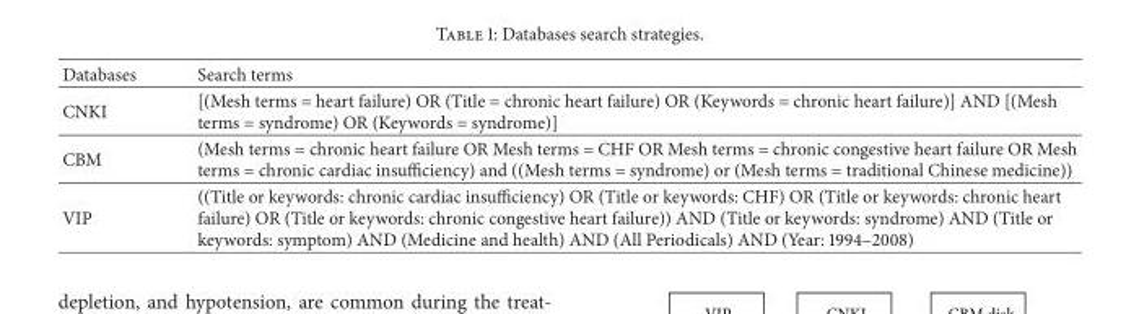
<table><thead><tr><td>Databases</td><td>Search terms</td></tr></thead><tbody><tr><td>CNKI</td><td>[(Mesh terms = heart failure) OR (Title = chronic heart failure) OR (Keywords = chronic heart failure)] AND [(Mesh terms = syndrome) OR (Keywords = syndrome)]</td></tr><tr><td>CBM</td><td>(Mesh terms = chronic heart failure OR Mesh terms = CHF OR Mesh terms = chronic congestive heart failure OR Mesh terms = chronic cardiac insufficiency) and ((Mesh terms = syndrome) or (Mesh terms = traditional Chinese medicine))</td></tr><tr><td>VIP</td><td>((Title or keywords: chronic cardiac insufficiency) OR (Title or keywords: CHF) OR (Title or keywords: chronic heart failure) OR (Title or keywords: chronic congestive heart failure)) AND (Title or keywords: syndrome) AND (Title or keywords: symptom) AND (Medicine and health) AND (All Periodicals) AND (Year: 1994–2008)</td></tr></tbody></table>